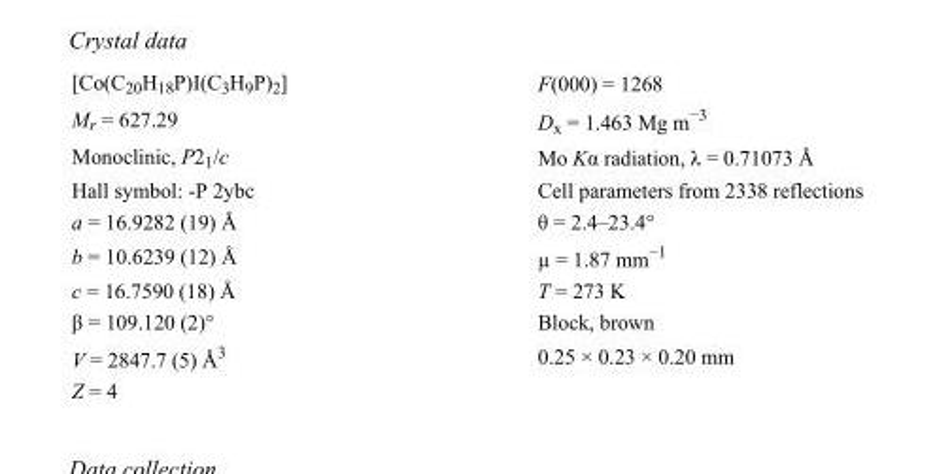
<table><tbody><tr><td>[Co(C<sub>20</sub>H<sub>18</sub>P)I(C<sub>3</sub>H<sub>9</sub>P)<sub>2</sub>]</td><td>F(000) = 1268</td></tr><tr><td>M<sub>r</sub> = 627.29</td><td>D<sub>x</sub> = 1.463 Mg m<sup>−3</sup></td></tr><tr><td>Monoclinic, P2<sub>1</sub>/c</td><td>Mo Kα radiation, λ = 0.71073 Å</td></tr><tr><td>Hall symbol: -P 2ybc</td><td>Cell parameters from 2338 reflections</td></tr><tr><td>a = 16.9282 (19) Å</td><td>θ = 2.4–23.4°</td></tr><tr><td>b = 10.6239 (12) Å</td><td>µ = 1.87 mm<sup>−1</sup></td></tr><tr><td>c = 16.7590 (18) Å</td><td>T = 273 K</td></tr><tr><td>β = 109.120 (2)°</td><td>Block, brown</td></tr><tr><td>V = 2847.7 (5) Å<sup>3</sup></td><td>0.25 × 0.23 × 0.20 mm</td></tr><tr><td>Z = 4</td><td></td></tr></tbody></table>